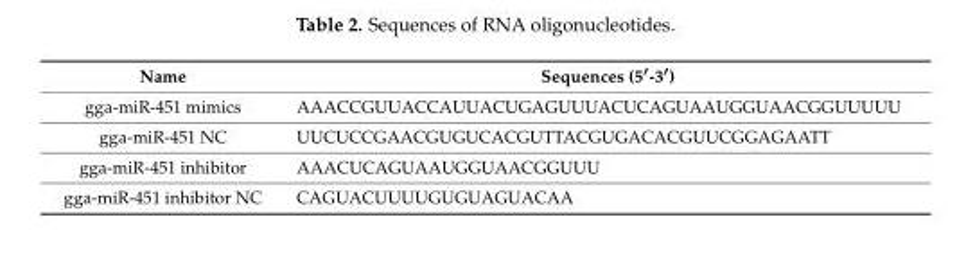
<table><thead><tr><td>Name</td><td>Sequences (5′-3′)</td></tr></thead><tbody><tr><td>gga-miR-451 mimics</td><td>AAACCGUUACCAUUACUGAGUUUACUCAGUAAUGGUAACGGUUUUU</td></tr><tr><td>gga-miR-451 NC</td><td>UUCUCCGAACGUGUCACGUTTACGUGACACGUUCGGAGAATT</td></tr><tr><td>gga-miR-451 inhibitor</td><td>AAACUCAGUAAUGGUAACGGUUU</td></tr><tr><td>gga-miR-451 inhibitor NC</td><td>CAGUACUUUUGUGUAGUACAA</td></tr></tbody></table>